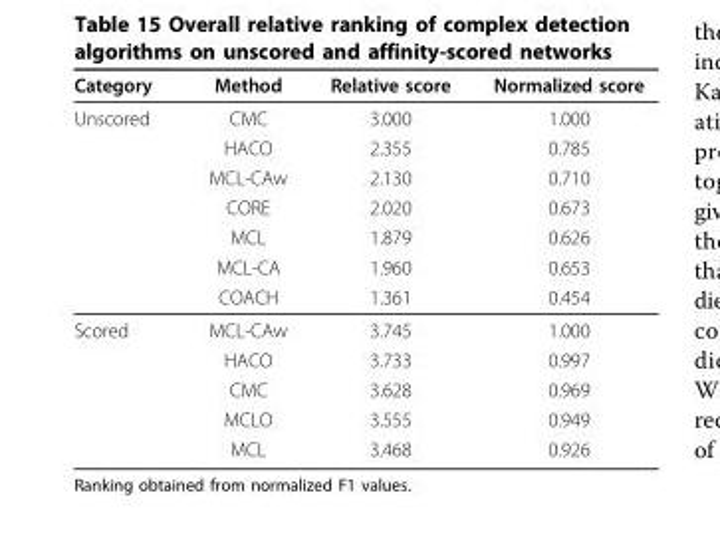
<table><thead><tr><td>Category</td><td>Method</td><td>Relative score</td><td>Normalized score</td></tr></thead><tbody><tr><td rowspan="7">Unscored</td><td>CMC</td><td>3.000</td><td>1.000</td></tr><tr><td>HACO</td><td>2.355</td><td>0.785</td></tr><tr><td>MCL-CAw</td><td>2.130</td><td>0.710</td></tr><tr><td>CORE</td><td>2.020</td><td>0.673</td></tr><tr><td>MCL</td><td>1.879</td><td>0.626</td></tr><tr><td>MCL-CA</td><td>1.960</td><td>0.653</td></tr><tr><td>COACH</td><td>1.361</td><td>0.454</td></tr><tr><td rowspan="5">Scored</td><td>MCL-CAw</td><td>3.745</td><td>1.000</td></tr><tr><td>HACO</td><td>3.733</td><td>0.997</td></tr><tr><td>CMC</td><td>3.628</td><td>0.969</td></tr><tr><td>MCLO</td><td>3.555</td><td>0.949</td></tr><tr><td>MCL</td><td>3.468</td><td>0.926</td></tr></tbody></table>